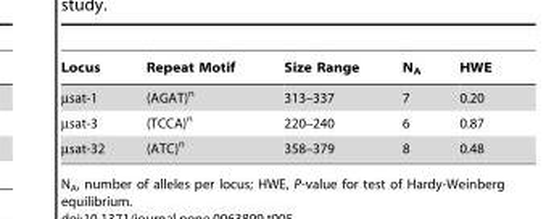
<table><thead><tr><td>Locus</td><td>Repeat Motif</td><td>Size Range</td><td>N<sub>A</sub></td><td>HWE</td></tr></thead><tbody><tr><td>µsat-1</td><td>(AGAT)<sup>n</sup></td><td>313–337</td><td>7</td><td>0.20</td></tr><tr><td>µsat-3</td><td>(TCCA)<sup>n</sup></td><td>220–240</td><td>6</td><td>0.87</td></tr><tr><td>µsat-32</td><td>(ATC)<sup>n</sup></td><td>358–379</td><td>8</td><td>0.48</td></tr></tbody></table>